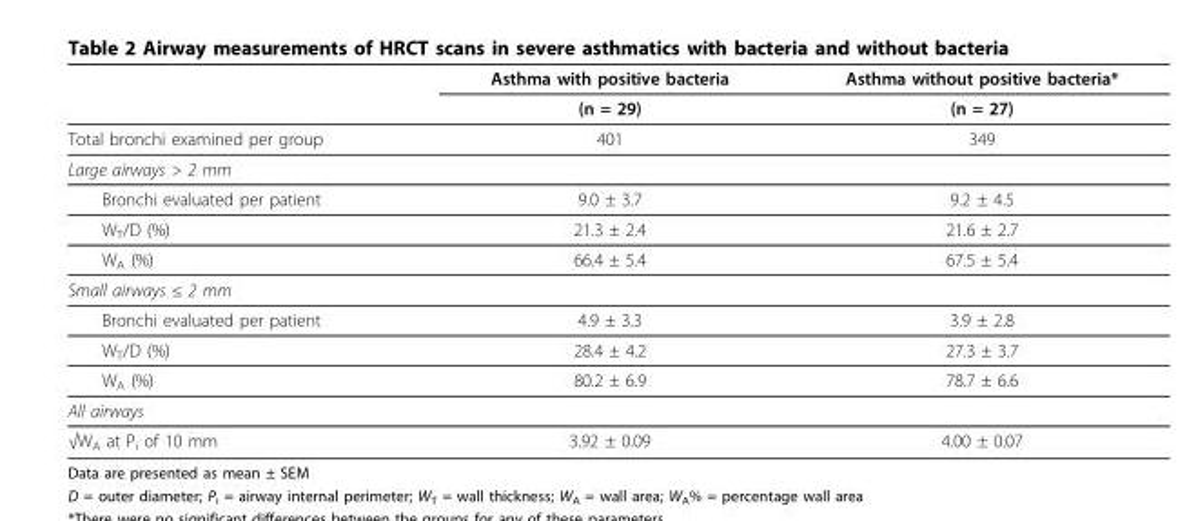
<table><thead><tr><td rowspan="2"></td><td rowspan="2">Asthma with positive bacteria (n = 29)</td><td rowspan="2">Asthma without positive bacteria* (n = 27)</td></tr><tr></tr></thead><tbody><tr><td>Total bronchi examined per group</td><td>401</td><td>349</td></tr><tr><td colspan="3">Large airways &gt; 2 mm</td></tr><tr><td>Bronchi evaluated per patient</td><td>9.0 ± 3.7</td><td>9.2 ± 4.5</td></tr><tr><td>W<sub>T</sub>/D (%)</td><td>21.3 ± 2.4</td><td>21.6 ± 2.7</td></tr><tr><td>W<sub>A</sub> (%)</td><td>66.4 ± 5.4</td><td>67.5 ± 5.4</td></tr><tr><td colspan="3">Small airways ≤ 2 mm</td></tr><tr><td>Bronchi evaluated per patient</td><td>4.9 ± 3.3</td><td>3.9 ± 2.8</td></tr><tr><td>W<sub>T</sub>/D (%)</td><td>28.4 ± 4.2</td><td>27.3 ± 3.7</td></tr><tr><td>W<sub>A</sub> (%)</td><td>80.2 ± 6.9</td><td>78.7 ± 6.6</td></tr><tr><td colspan="3">All airways</td></tr><tr><td>√W<sub>A</sub> at P<sub>i</sub> of 10 mm</td><td>3.92 ± 0.09</td><td>4.00 ± 0.07</td></tr></tbody></table>